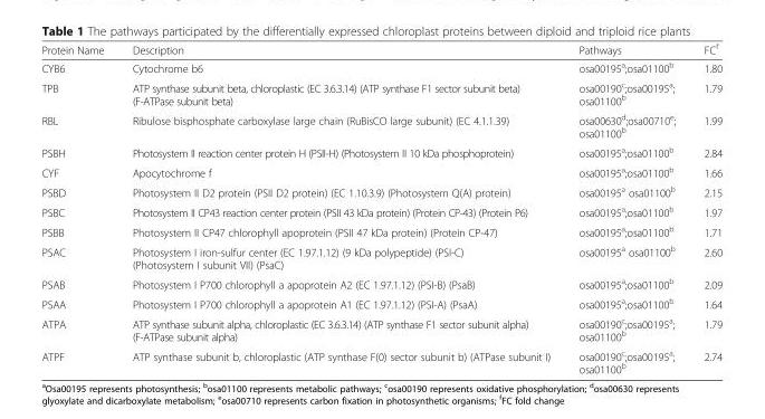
<table><thead><tr><td>Protein Name</td><td>Description</td><td>Pathways</td><td>FC<sup>f</sup></td></tr></thead><tbody><tr><td>CYB6</td><td>Cytochrome b6</td><td>osa00195<sup>a</sup>;osa01100<sup>b</sup></td><td>1.80</td></tr><tr><td>TPB</td><td>ATP synthase subunit beta, chloroplastic (EC 3.6.3.14) (ATP synthase F1 sector subunit beta) (F-ATPase subunit beta)</td><td>osa00190<sup>c</sup>;osa00195<sup>a</sup>; osa01100<sup>b</sup></td><td>1.79</td></tr><tr><td>RBL</td><td>Ribulose bisphosphate carboxylase large chain (RuBisCO large subunit) (EC 4.1.1.39)</td><td>osa00630<sup>d</sup>;osa00710<sup>e</sup>; osa01100<sup>b</sup></td><td>1.99</td></tr><tr><td>PSBH</td><td>Photosystem II reaction center protein H (PSII-H) (Photosystem II 10 kDa phosphoprotein)</td><td>osa00195<sup>a</sup>;osa01100<sup>b</sup></td><td>2.84</td></tr><tr><td>CYF</td><td>Apocytochrome f</td><td>osa00195<sup>a</sup>;osa01100<sup>b</sup></td><td>1.66</td></tr><tr><td>PSBD</td><td>Photosystem II D2 protein (PSII D2 protein) (EC 1.10.3.9) (Photosystem Q(A) protein)</td><td>osa00195<sup>a</sup> osa01100<sup>b</sup></td><td>2.15</td></tr><tr><td>PSBC</td><td>Photosystem II CP43 reaction center protein (PSII 43 kDa protein) (Protein CP-43) (Protein P6)</td><td>osa00195<sup>a</sup>;osa01100<sup>b</sup></td><td>1.97</td></tr><tr><td>PSBB</td><td>Photosystem II CP47 chlorophyll apoprotein (PSII 47 kDa protein) (Protein CP-47)</td><td>osa00195<sup>a</sup>;osa01100<sup>b</sup></td><td>1.71</td></tr><tr><td>PSAC</td><td>Photosystem I iron-sulfur center (EC 1.97.1.12) (9 kDa polypeptide) (PSI-C) (Photosystem I subunit VII) (PsaC)</td><td>osa00195<sup>a</sup> osa01100<sup>b</sup></td><td>2.60</td></tr><tr><td>PSAB</td><td>Photosystem I P700 chlorophyll a apoprotein A2 (EC 1.97.1.12) (PSI-B) (PsaB)</td><td>osa00195<sup>a</sup>;osa01100<sup>b</sup></td><td>2.09</td></tr><tr><td>PSAA</td><td>Photosystem I P700 chlorophyll a apoprotein A1 (EC 1.97.1.12) (PSI-A) (PsaA)</td><td>osa00195<sup>a</sup>;osa01100<sup>b</sup></td><td>1.64</td></tr><tr><td>ATPA</td><td>ATP synthase subunit alpha, chloroplastic (EC 3.6.3.14) (ATP synthase F1 sector subunit alpha) (F-ATPase subunit alpha)</td><td>osa00190<sup>c</sup>;osa00195<sup>a</sup>; osa01100<sup>b</sup></td><td>1.79</td></tr><tr><td>ATPF</td><td>ATP synthase subunit b, chloroplastic (ATP synthase F(0) sector subunit b) (ATPase subunit I)</td><td>osa00190<sup>c</sup>;osa00195<sup>a</sup>; osa01100<sup>b</sup></td><td>2.74</td></tr></tbody></table>